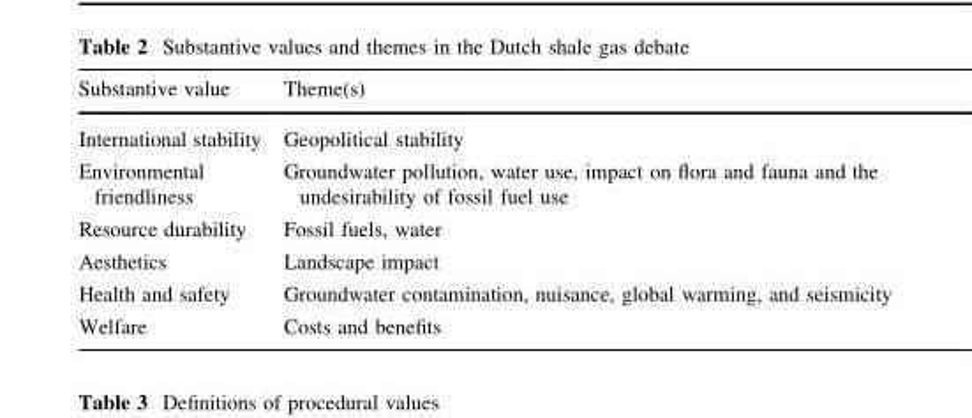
<table><thead><tr><td>Substantive value</td><td>Theme(s)</td></tr></thead><tbody><tr><td>International stability</td><td>Geopolitical stability</td></tr><tr><td>Environmental friendliness</td><td>Groundwater pollution, water use, impact on flora and fauna and the undesirability of fossil fuel use</td></tr><tr><td>Resource durability</td><td>Fossil fuels, water</td></tr><tr><td>Aesthetics</td><td>Landscape impact</td></tr><tr><td>Health and safety</td><td>Groundwater contamination, nuisance, global warming, and seismicity</td></tr><tr><td>Welfare</td><td>Costs and benefits</td></tr></tbody></table>